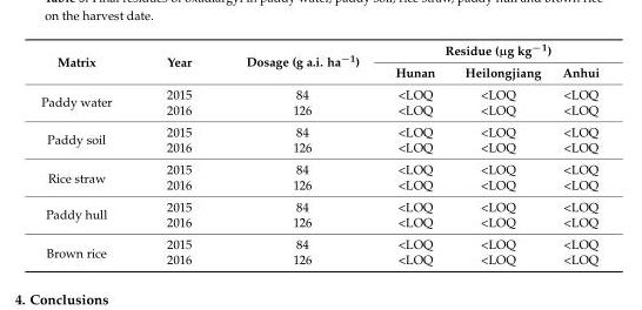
<table><thead><tr><td rowspan="2">Matrix</td><td rowspan="2">Year</td><td rowspan="2">Dosage (g a.i. ha<sup>−1</sup>)</td><td colspan="3">Residue (µg kg<sup>−1</sup>)</td></tr><tr><td>Hunan</td><td>Heilongjiang</td><td>Anhui</td></tr></thead><tbody><tr><td rowspan="2">Paddy water</td><td>2015</td><td>84</td><td>&lt;LOQ</td><td>&lt;LOQ</td><td>&lt;LOQ</td></tr><tr><td>2016</td><td>126</td><td>&lt;LOQ</td><td>&lt;LOQ</td><td>&lt;LOQ</td></tr><tr><td rowspan="2">Paddy soil</td><td>2015</td><td>84</td><td>&lt;LOQ</td><td>&lt;LOQ</td><td>&lt;LOQ</td></tr><tr><td>2016</td><td>126</td><td>&lt;LOQ</td><td>&lt;LOQ</td><td>&lt;LOQ</td></tr><tr><td rowspan="2">Rice straw</td><td>2015</td><td>84</td><td>&lt;LOQ</td><td>&lt;LOQ</td><td>&lt;LOQ</td></tr><tr><td>2016</td><td>126</td><td>&lt;LOQ</td><td>&lt;LOQ</td><td>&lt;LOQ</td></tr><tr><td rowspan="2">Paddy hull</td><td>2015</td><td>84</td><td>&lt;LOQ</td><td>&lt;LOQ</td><td>&lt;LOQ</td></tr><tr><td>2016</td><td>126</td><td>&lt;LOQ</td><td>&lt;LOQ</td><td>&lt;LOQ</td></tr><tr><td rowspan="2">Brown rice</td><td>2015</td><td>84</td><td>&lt;LOQ</td><td>&lt;LOQ</td><td>&lt;LOQ</td></tr><tr><td>2016</td><td>126</td><td>&lt;LOQ</td><td>&lt;LOQ</td><td>&lt;LOQ</td></tr></tbody></table>